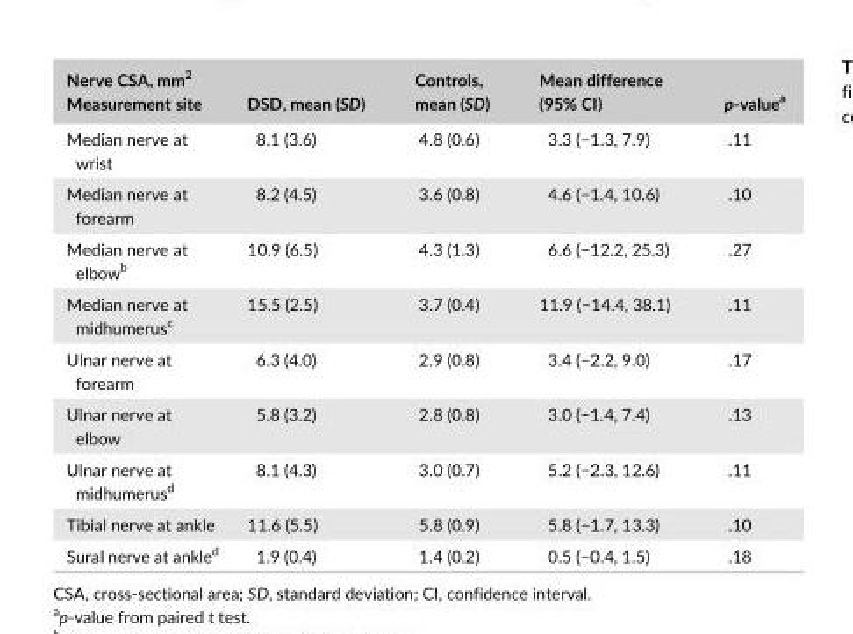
<table><thead><tr><td>Nerve CSA, mm<sup>2</sup> Measurement site</td><td>DSD, mean (SD)</td><td>Controls, mean (SD)</td><td>Mean difference (95% CI)</td><td>p- value<sup>a</sup></td></tr></thead><tbody><tr><td>Median nerve at wrist</td><td>8.1 (3.6)</td><td>4.8 (0.6)</td><td>3.3 (−1.3, 7.9)</td><td>.11</td></tr><tr><td>Median nerve at forearm</td><td>8.2 (4.5)</td><td>3.6 (0.8)</td><td>4.6 (−1.4, 10.6)</td><td>.10</td></tr><tr><td>Median nerve at elbow<sup>b</sup></td><td>10.9 (6.5)</td><td>4.3 (1.3)</td><td>6.6 (−12.2, 25.3)</td><td>.27</td></tr><tr><td>Median nerve at midhumerus<sup>c</sup></td><td>15.5 (2.5)</td><td>3.7 (0.4)</td><td>11.9 (−14.4, 38.1)</td><td>.11</td></tr><tr><td>Ulnar nerve at forearm</td><td>6.3 (4.0)</td><td>2.9 (0.8)</td><td>3.4 (−2.2, 9.0)</td><td>.17</td></tr><tr><td>Ulnar nerve at elbow</td><td>5.8 (3.2)</td><td>2.8 (0.8)</td><td>3.0 (−1.4, 7.4)</td><td>.13</td></tr><tr><td>Ulnar nerve at midhumerus<sup>d</sup></td><td>8.1 (4.3)</td><td>3.0 (0.7)</td><td>5.2 (−2.3, 12.6)</td><td>.11</td></tr><tr><td>Tibial nerve at ankle</td><td>11.6 (5.5)</td><td>5.8 (0.9)</td><td>5.8 (−1.7, 13.3)</td><td>.10</td></tr><tr><td>Sural nerve at ankle<sup>d</sup></td><td>1.9 (0.4)</td><td>1.4 (0.2)</td><td>0.5 (−0.4, 1.5)</td><td>.18</td></tr></tbody></table>